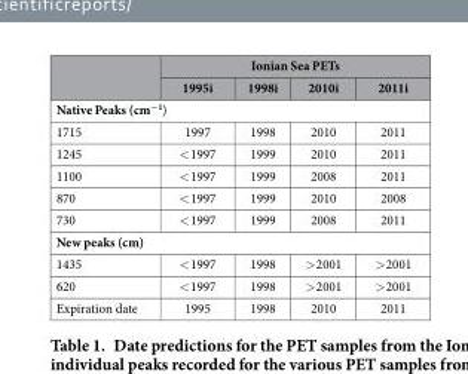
<table><thead><tr><td rowspan="2"></td><td colspan="4">Ionian Sea PETs</td></tr><tr><td>1995i</td><td>1998i</td><td>2010i</td><td>2011i</td></tr></thead><tbody><tr><td colspan="5">Native Peaks (cm<sup>−1</sup>)</td></tr><tr><td>1715</td><td>1997</td><td>1998</td><td>2010</td><td>2011</td></tr><tr><td>1245</td><td>&lt; 1997</td><td>1999</td><td>2010</td><td>2011</td></tr><tr><td>1100</td><td>&lt; 1997</td><td>1999</td><td>2008</td><td>2011</td></tr><tr><td>870</td><td>&lt; 1997</td><td>1999</td><td>2010</td><td>2008</td></tr><tr><td>730</td><td>&lt; 1997</td><td>1999</td><td>2008</td><td>2011</td></tr><tr><td colspan="5">New peaks (cm)</td></tr><tr><td>1435</td><td>&lt; 1997</td><td>1998</td><td>&gt; 2001</td><td>&gt; 2001</td></tr><tr><td>620</td><td>&lt; 1997</td><td>1998</td><td>&gt; 2001</td><td>&gt; 2001</td></tr><tr><td>Expiration date</td><td>1995</td><td>1998</td><td>2010</td><td>2011</td></tr></tbody></table>